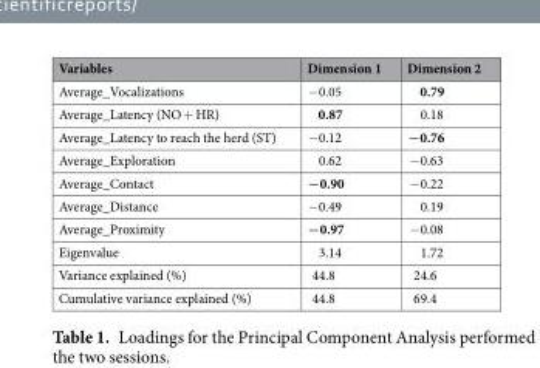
<table><thead><tr><td>Variables</td><td>Dimension 1</td><td>Dimension 2</td></tr></thead><tbody><tr><td>Average_Vocalizations</td><td>−0.05</td><td>0.79</td></tr><tr><td>Average_Latency (NO + HR)</td><td>0.87</td><td>0.18</td></tr><tr><td>Average_Latency to reach the herd (ST)</td><td>−0.12</td><td>−0.76</td></tr><tr><td>Average_Exploration</td><td>0.62</td><td>−0.63</td></tr><tr><td>Average_Contact</td><td>−0.90</td><td>−0.22</td></tr><tr><td>Average_Distance</td><td>−0.49</td><td>0.19</td></tr><tr><td>Average_Proximity</td><td>−0.97</td><td>−0.08</td></tr><tr><td>Eigenvalue</td><td>3.14</td><td>1.72</td></tr><tr><td>Variance explained (%)</td><td>44.8</td><td>24.6</td></tr><tr><td>Cumulative variance explained (%)</td><td>44.8</td><td>69.4</td></tr></tbody></table>